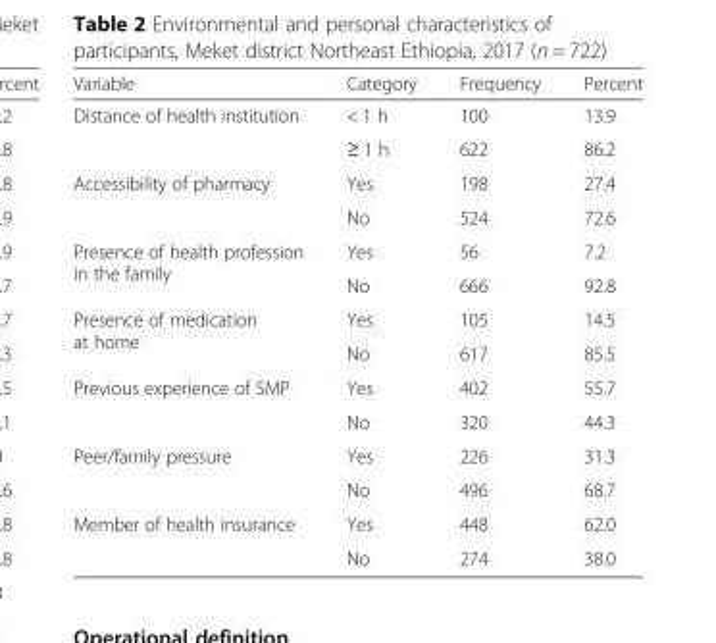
<table><thead><tr><td>Variable</td><td>Category</td><td>Frequency</td><td>Percent</td></tr></thead><tbody><tr><td rowspan="2">Distance of health institution</td><td>&lt; 1 h</td><td>100</td><td>13.9</td></tr><tr><td>≥ 1 h</td><td>622</td><td>86.2</td></tr><tr><td rowspan="2">Accessibility of pharmacy</td><td>Yes</td><td>198</td><td>27.4</td></tr><tr><td>No</td><td>524</td><td>72.6</td></tr><tr><td rowspan="2">Presence of health profession in the family</td><td>Yes</td><td>56</td><td>7.2</td></tr><tr><td>No</td><td>666</td><td>92.8</td></tr><tr><td rowspan="2">Presence of medication at home</td><td>Yes</td><td>105</td><td>14.5</td></tr><tr><td>No</td><td>617</td><td>85.5</td></tr><tr><td rowspan="2">Previous experience of SMP</td><td>Yes</td><td>402</td><td>55.7</td></tr><tr><td>No</td><td>320</td><td>44.3</td></tr><tr><td rowspan="2">Peer/family pressure</td><td>Yes</td><td>226</td><td>31.3</td></tr><tr><td>No</td><td>496</td><td>68.7</td></tr><tr><td rowspan="2">Member of health insurance</td><td>Yes</td><td>448</td><td>62.0</td></tr><tr><td>No</td><td>274</td><td>38.0</td></tr></tbody></table>